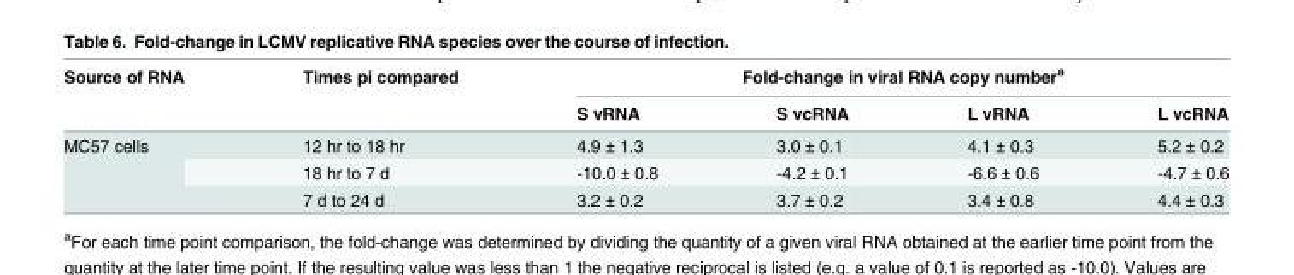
<table><thead><tr><td rowspan="2">Source of RNA</td><td rowspan="2">Times pi compared</td><td colspan="4">Fold-change in viral RNA copy number<sup>a</sup></td></tr><tr><td>S vRNA</td><td>S vcRNA</td><td>L vRNA</td><td>L vcRNA</td></tr></thead><tbody><tr><td rowspan="3">MC57 cells</td><td>12 hr to 18 hr</td><td>4.9 ± 1.3</td><td>3.0 ± 0.1</td><td>4.1 ± 0.3</td><td>5.2 ± 0.2</td></tr><tr><td>18 hr to 7 d</td><td>-10.0 ± 0.8</td><td>-4.2 ± 0.1</td><td>-6.6 ± 0.6</td><td>-4.7 ± 0.6</td></tr><tr><td>7 d to 24 d</td><td>3.2 ± 0.2</td><td>3.7 ± 0.2</td><td>3.4 ± 0.8</td><td>4.4 ± 0.3</td></tr></tbody></table>